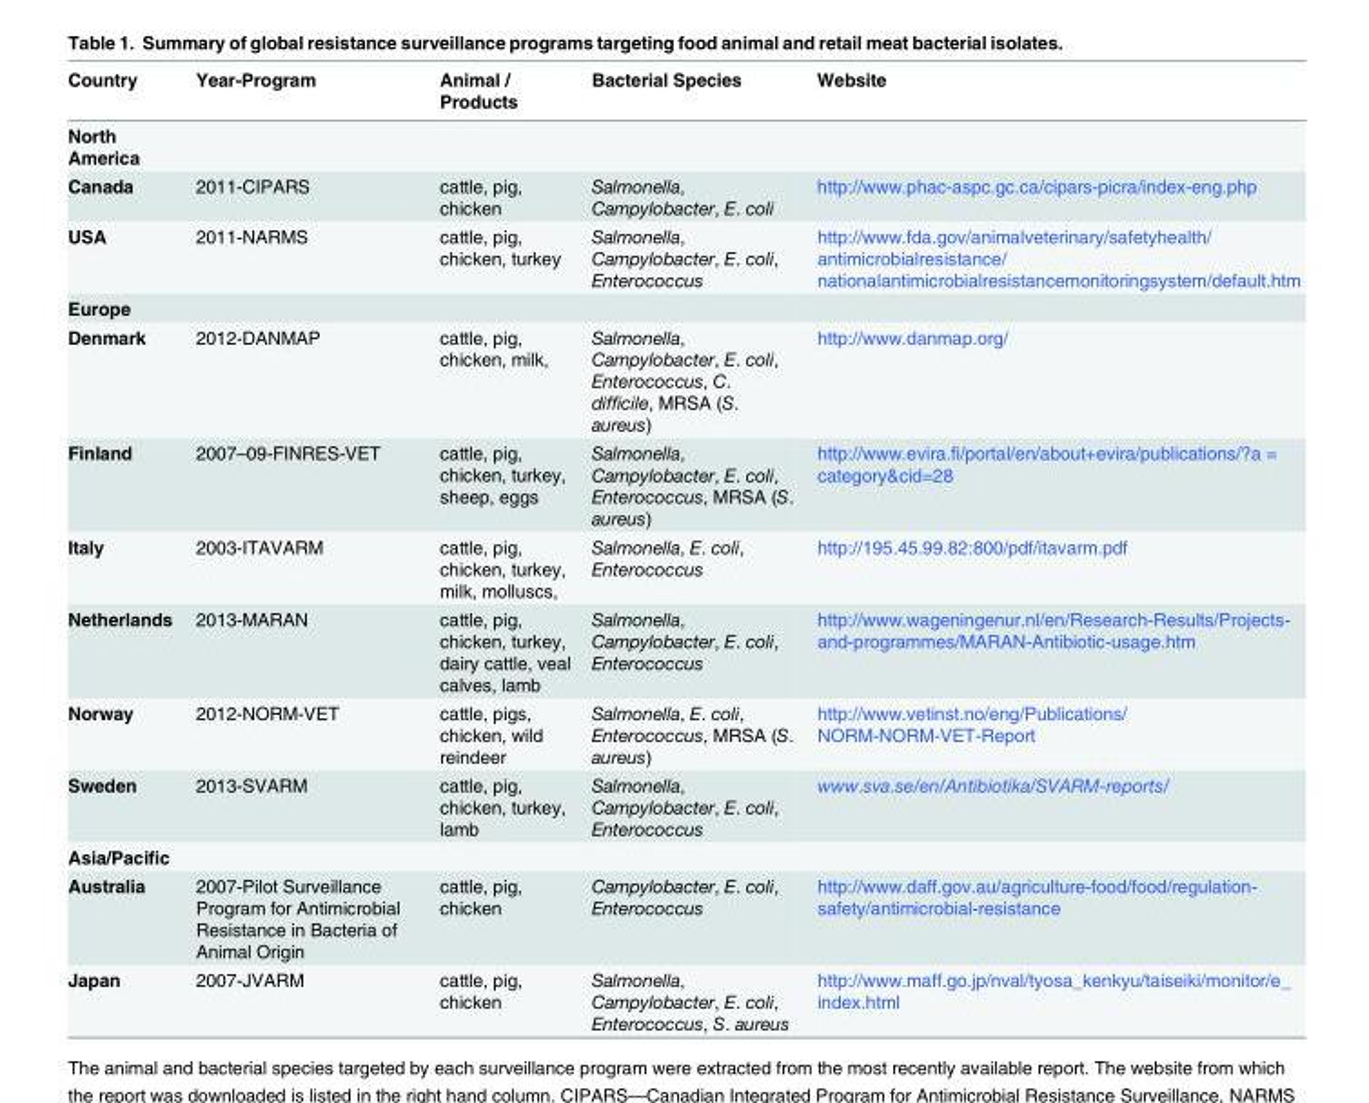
<table><thead><tr><td>Country</td><td>Year-Program</td><td>Animal / Products</td><td>Bacterial Species</td><td>Website</td></tr></thead><tbody><tr><td colspan="5">North America</td></tr><tr><td>Canada</td><td>2011-CIPARS</td><td>cattle, pig, chicken</td><td>Salmonella, Campylobacter, E. coli</td><td>http://www.phac-aspc.gc.ca/cipars-picra/index-eng.php</td></tr><tr><td>USA</td><td>2011-NARMS</td><td>cattle, pig, chicken, turkey</td><td>Salmonella, Campylobacter, E. coli, Enterococcus</td><td>http://www.fda.gov/animalveterinary/safetyhealth/ antimicrobialresistance/ nationalantimicrobialresistancemonitoringsystem/default.htm</td></tr><tr><td colspan="5">Europe</td></tr><tr><td>Denmark</td><td>2012-DANMAP</td><td>cattle, pig, chicken, milk,</td><td>Salmonella, Campylobacter, E. coli, Enterococcus, C. difficile, MRSA (S. aureus)</td><td>http://www.danmap.org/</td></tr><tr><td>Finland</td><td>2007–09-FINRES-VET</td><td>cattle, pig, chicken, turkey, sheep, eggs</td><td>Salmonella, Campylobacter, E. coli, Enterococcus, MRSA (S. aureus)</td><td>http://www.evira.fi/portal/en/about+evira/publications/?a = category&amp;cid=28</td></tr><tr><td>Italy</td><td>2003-ITAVARM</td><td>cattle, pig, chicken, turkey, milk, molluscs,</td><td>Salmonella, E. coli, Enterococcus</td><td>http://195.45.99.82:800/pdf/itavarm.pdf</td></tr><tr><td>Netherlands</td><td>2013-MARAN</td><td>cattle, pig, chicken, turkey, dairy cattle, veal calves, lamb</td><td>Salmonella, Campylobacter, E. coli, Enterococcus</td><td>http://www.wageningenur.nl/en/Research-Results/Projects- and-programmes/MARAN-Antibiotic-usage.htm</td></tr><tr><td>Norway</td><td>2012-NORM-VET</td><td>cattle, pigs, chicken, wild reindeer</td><td>Salmonella, E. coli, Enterococcus, MRSA (S. aureus)</td><td>http://www.vetinst.no/eng/Publications/ NORM-NORM-VET-Report</td></tr><tr><td>Sweden</td><td>2013-SVARM</td><td>cattle, pig, chicken, turkey, lamb</td><td>Salmonella, Campylobacter, E. coli, Enterococcus</td><td>www.sva.se/en/Antibiotika/SVARM-reports/</td></tr><tr><td colspan="5">Asia/Pacific</td></tr><tr><td>Australia</td><td>2007-Pilot Surveillance Program for Antimicrobial Resistance in Bacteria of Animal Origin</td><td>cattle, pig, chicken</td><td>Campylobacter, E. coli, Enterococcus</td><td>http://www.daff.gov.au/agriculture-food/food/regulation- safety/antimicrobial-resistance</td></tr><tr><td>Japan</td><td>2007-JVARM</td><td>cattle, pig, chicken</td><td>Salmonella, Campylobacter, E. coli, Enterococcus, S. aureus</td><td>http://www.maff.go.jp/nval/tyosa_kenkyu/taiseiki/monitor/e_ index.html</td></tr></tbody></table>